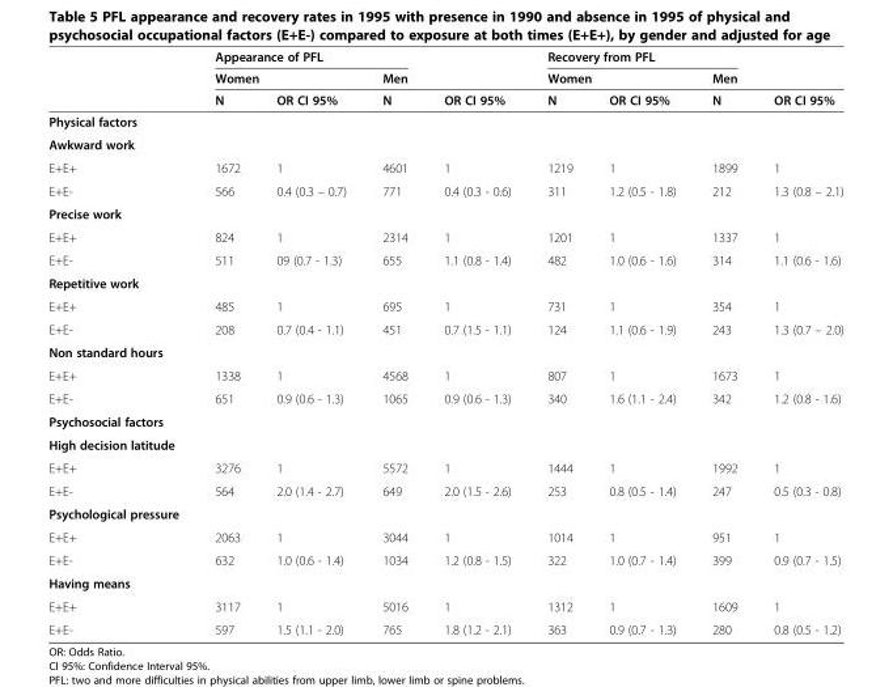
<table><thead><tr><td rowspan="3"></td><td colspan="3">Appearance of PFL</td><td></td><td colspan="3">Recovery from PFL</td><td></td></tr><tr><td colspan="2">Women</td><td colspan="2">Men</td><td colspan="2">Women</td><td colspan="2">Men</td></tr><tr><td>N</td><td>OR CI 95%</td><td>N</td><td>OR CI 95%</td><td>N</td><td>OR CI 95%</td><td>N</td><td>OR CI 95%</td></tr></thead><tbody><tr><td colspan="9">Physical factors</td></tr><tr><td colspan="9">Awkward work</td></tr><tr><td>E+E+</td><td>1672</td><td>1</td><td>4601</td><td>1</td><td>1219</td><td>1</td><td>1899</td><td>1</td></tr><tr><td>E+E-</td><td>566</td><td>0.4 (0.3 – 0.7)</td><td>771</td><td>0.4 (0.3 - 0.6)</td><td>311</td><td>1.2 (0.5 - 1.8)</td><td>212</td><td>1.3 (0.8 – 2.1)</td></tr><tr><td colspan="9">Precise work</td></tr><tr><td>E+E+</td><td>824</td><td>1</td><td>2314</td><td>1</td><td>1201</td><td>1</td><td>1337</td><td>1</td></tr><tr><td>E+E-</td><td>511</td><td>09 (0.7 - 1.3)</td><td>655</td><td>1.1 (0.8 - 1.4)</td><td>482</td><td>1.0 (0.6 - 1.6)</td><td>314</td><td>1.1 (0.6 - 1.6)</td></tr><tr><td colspan="9">Repetitive work</td></tr><tr><td>E+E+</td><td>485</td><td>1</td><td>695</td><td>1</td><td>731</td><td>1</td><td>354</td><td>1</td></tr><tr><td>E+E-</td><td>208</td><td>0.7 (0.4 - 1.1)</td><td>451</td><td>0.7 (1.5 - 1.1)</td><td>124</td><td>1.1 (0.6 - 1.9)</td><td>243</td><td>1.3 (0.7 – 2.0)</td></tr><tr><td colspan="9">Non standard hours</td></tr><tr><td>E+E+</td><td>1338</td><td>1</td><td>4568</td><td>1</td><td>807</td><td>1</td><td>1673</td><td>1</td></tr><tr><td>E+E-</td><td>651</td><td>0.9 (0.6 - 1.3)</td><td>1065</td><td>0.9 (0.6 - 1.3)</td><td>340</td><td>1.6 (1.1 - 2.4)</td><td>342</td><td>1.2 (0.8 - 1.6)</td></tr><tr><td colspan="9">Psychosocial factors</td></tr><tr><td colspan="9">High decision latitude</td></tr><tr><td>E+E+</td><td>3276</td><td>1</td><td>5572</td><td>1</td><td>1444</td><td>1</td><td>1992</td><td>1</td></tr><tr><td>E+E-</td><td>564</td><td>2.0 (1.4 - 2.7)</td><td>649</td><td>2.0 (1.5 - 2.6)</td><td>253</td><td>0.8 (0.5 - 1.4)</td><td>247</td><td>0.5 (0.3 - 0.8)</td></tr><tr><td colspan="9">Psychological pressure</td></tr><tr><td>E+E+</td><td>2063</td><td>1</td><td>3044</td><td>1</td><td>1014</td><td>1</td><td>951</td><td>1</td></tr><tr><td>E+E-</td><td>632</td><td>1.0 (0.6 - 1.4)</td><td>1034</td><td>1.2 (0.8 - 1.5)</td><td>322</td><td>1.0 (0.7 - 1.4)</td><td>399</td><td>0.9 (0.7 - 1.5)</td></tr><tr><td colspan="9">Having means</td></tr><tr><td>E+E+</td><td>3117</td><td>1</td><td>5016</td><td>1</td><td>1312</td><td>1</td><td>1609</td><td>1</td></tr><tr><td>E+E-</td><td>597</td><td>1.5 (1.1 - 2.0)</td><td>765</td><td>1.8 (1.2 - 2.1)</td><td>363</td><td>0.9 (0.7 - 1.3)</td><td>280</td><td>0.8 (0.5 - 1.2)</td></tr></tbody></table>